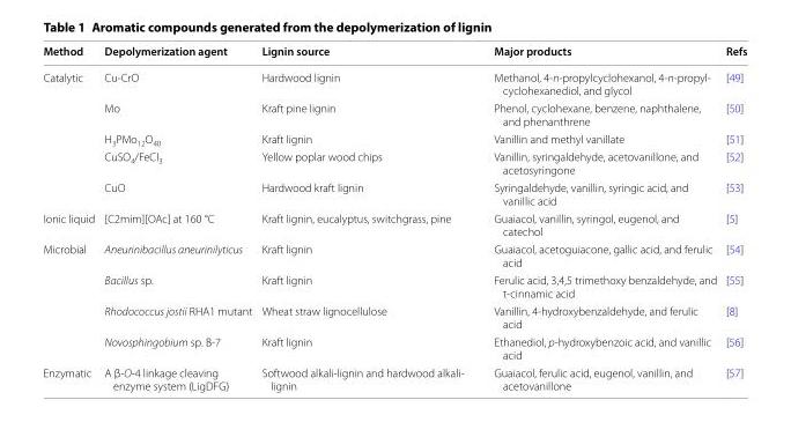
<table><thead><tr><td>Method</td><td>Depolymerization agent</td><td>Lignin source</td><td>Major products</td><td>Refs</td></tr></thead><tbody><tr><td rowspan="5">Catalytic</td><td>Cu-CrO</td><td>Hardwood lignin</td><td>Methanol, 4-n-propylcyclohexanol, 4-n-propyl- cyclohexanediol, and glycol</td><td>[49]</td></tr><tr><td>Mo</td><td>Kraft pine lignin</td><td>Phenol, cyclohexane, benzene, naphthalene, and phenanthrene</td><td>[50]</td></tr><tr><td>H<sub>3</sub>PMo<sub>12</sub>O<sub>40</sub></td><td>Kraft lignin</td><td>Vanillin and methyl vanillate</td><td>[51]</td></tr><tr><td>CuSO<sub>4</sub>/FeCl<sub>3</sub></td><td>Yellow poplar wood chips</td><td>Vanillin, syringaldehyde, acetovanillone, and acetosyringone</td><td>[52]</td></tr><tr><td>CuO</td><td>Hardwood kraft lignin</td><td>Syringaldehyde, vanillin, syringic acid, and vanillic acid</td><td>[53]</td></tr><tr><td>Ionic liquid</td><td>[C2mim][OAc] at 160 °C</td><td>Kraft lignin, eucalyptus, switchgrass, pine</td><td>Guaiacol, vanillin, syringol, eugenol, and catechol</td><td>[5]</td></tr><tr><td rowspan="4">Microbial</td><td>Aneurinibacillus aneurinilyticus</td><td>Kraft lignin</td><td>Guaiacol, acetoguiacone, gallic acid, and ferulic acid</td><td>[54]</td></tr><tr><td>Bacillus sp.</td><td>Kraft lignin</td><td>Ferulic acid, 3,4,5 trimethoxy benzaldehyde, and t-cinnamic acid</td><td>[55]</td></tr><tr><td>Rhodococcus jostii RHA1 mutant</td><td>Wheat straw lignocellulose</td><td>Vanillin, 4-hydroxybenzaldehyde, and ferulic acid</td><td>[8]</td></tr><tr><td>Novosphingobium sp. B-7</td><td>Kraft lignin</td><td>Ethanediol, p-hydroxybenzoic acid, and vanillic acid</td><td>[56]</td></tr><tr><td>Enzymatic</td><td>A β-O-4 linkage cleaving enzyme system (LigDFG)</td><td>Softwood alkali-lignin and hardwood alkali- lignin</td><td>Guaiacol, ferulic acid, eugenol, vanillin, and acetovanillone</td><td>[57]</td></tr></tbody></table>